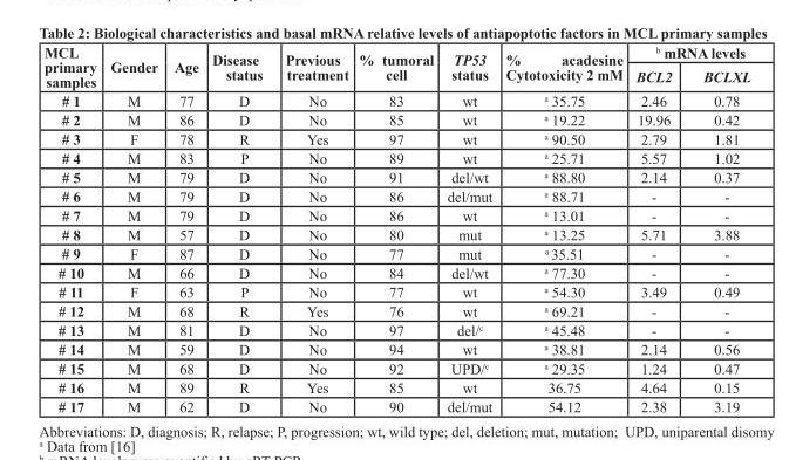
<table><thead><tr><td rowspan="2">MCL primary samples</td><td rowspan="2">Gender</td><td rowspan="2">Age</td><td rowspan="2">Disease status</td><td rowspan="2">Previous treatment</td><td rowspan="2">% tumoral cell</td><td rowspan="2">TP53 status</td><td rowspan="2">% acadesine Cytotoxicity 2 mM</td><td colspan="2"><sup>b</sup> mRNA levels</td></tr><tr><td>BCL2</td><td>BCLXL</td></tr></thead><tbody><tr><td># 1</td><td>M</td><td>77</td><td>D</td><td>No</td><td>83</td><td>wt</td><td><sup>a</sup> 35.75</td><td>2.46</td><td>0.78</td></tr><tr><td># 2</td><td>M</td><td>86</td><td>D</td><td>No</td><td>85</td><td>wt</td><td><sup>a</sup> 19.22</td><td>19.96</td><td>0.42</td></tr><tr><td># 3</td><td>F</td><td>78</td><td>R</td><td>Yes</td><td>97</td><td>wt</td><td><sup>a</sup> 90.50</td><td>2.79</td><td>1.81</td></tr><tr><td># 4</td><td>M</td><td>83</td><td>P</td><td>No</td><td>89</td><td>wt</td><td><sup>a</sup> 25.71</td><td>5.57</td><td>1.02</td></tr><tr><td># 5</td><td>M</td><td>79</td><td>D</td><td>No</td><td>91</td><td>del/wt</td><td><sup>a</sup> 88.80</td><td>2.14</td><td>0.37</td></tr><tr><td># 6</td><td>M</td><td>79</td><td>D</td><td>No</td><td>86</td><td>del/mut</td><td><sup>a</sup> 88.71</td><td>-</td><td>-</td></tr><tr><td># 7</td><td>M</td><td>79</td><td>D</td><td>No</td><td>86</td><td>wt</td><td><sup>a</sup> 13.01</td><td>-</td><td>-</td></tr><tr><td># 8</td><td>M</td><td>57</td><td>D</td><td>No</td><td>80</td><td>mut</td><td><sup>a</sup> 13.25</td><td>5.71</td><td>3.88</td></tr><tr><td># 9</td><td>F</td><td>87</td><td>D</td><td>No</td><td>77</td><td>mut</td><td><sup>a</sup> 35.51</td><td>-</td><td>-</td></tr><tr><td># 10</td><td>M</td><td>66</td><td>D</td><td>No</td><td>84</td><td>del/wt</td><td><sup>a</sup> 77.30</td><td>-</td><td>-</td></tr><tr><td># 11</td><td>F</td><td>63</td><td>P</td><td>No</td><td>77</td><td>wt</td><td><sup>a</sup> 54.30</td><td>3.49</td><td>0.49</td></tr><tr><td># 12</td><td>M</td><td>68</td><td>R</td><td>Yes</td><td>76</td><td>wt</td><td><sup>a</sup> 69.21</td><td>-</td><td>-</td></tr><tr><td># 13</td><td>M</td><td>81</td><td>D</td><td>No</td><td>97</td><td>del/<sup>c</sup></td><td><sup>a</sup> 45.48</td><td>-</td><td>-</td></tr><tr><td># 14</td><td>M</td><td>59</td><td>D</td><td>No</td><td>94</td><td>wt</td><td><sup>a</sup> 38.81</td><td>2.14</td><td>0.56</td></tr><tr><td># 15</td><td>M</td><td>68</td><td>D</td><td>No</td><td>92</td><td>UPD/<sup>c</sup></td><td><sup>a</sup> 29.35</td><td>1.24</td><td>0.47</td></tr><tr><td># 16</td><td>M</td><td>89</td><td>R</td><td>Yes</td><td>85</td><td>wt</td><td>36.75</td><td>4.64</td><td>0.15</td></tr><tr><td># 17</td><td>M</td><td>62</td><td>D</td><td>No</td><td>90</td><td>del/mut</td><td>54.12</td><td>2.38</td><td>3.19</td></tr></tbody></table>